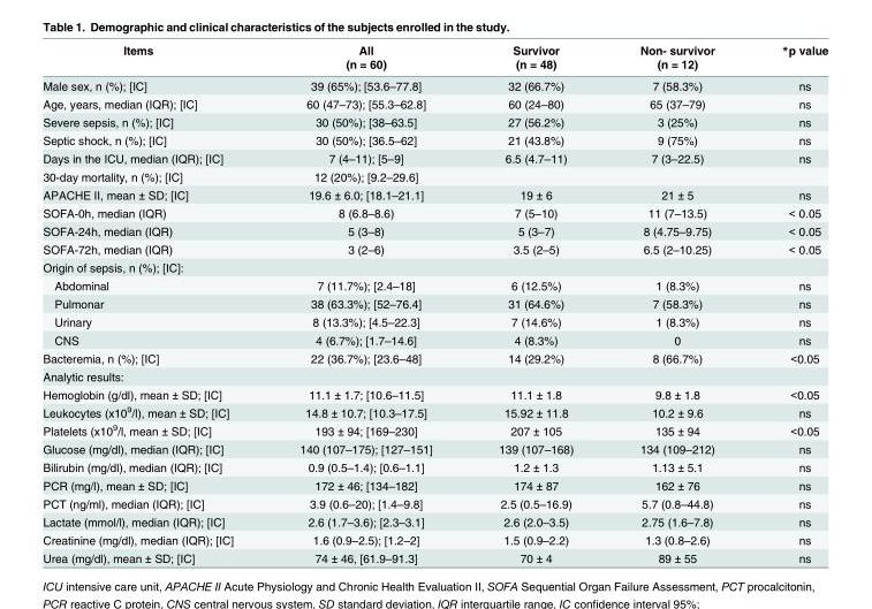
<table><thead><tr><td rowspan="2">Items</td><td rowspan="2">All (n = 60)</td><td rowspan="2">Survivor (n = 48)</td><td rowspan="2">Non- survivor (n = 12)</td><td rowspan="2">*p value</td></tr><tr></tr></thead><tbody><tr><td>Male sex, n (%); [IC]</td><td>39 (65%); [53.6–77.8]</td><td>32 (66.7%)</td><td>7 (58.3%)</td><td>ns</td></tr><tr><td>Age, years, median (IQR); [IC]</td><td>60 (47–73); [55.3–62.8]</td><td>60 (24–80)</td><td>65 (37–79)</td><td>ns</td></tr><tr><td>Severe sepsis, n (%); [IC]</td><td>30 (50%); [38–63.5]</td><td>27 (56.2%)</td><td>3 (25%)</td><td>ns</td></tr><tr><td>Septic shock, n (%); [IC]</td><td>30 (50%); [36.5–62]</td><td>21 (43.8%)</td><td>9 (75%)</td><td>ns</td></tr><tr><td>Days in the ICU, median (IQR); [IC]</td><td>7 (4–11); [5–9]</td><td>6.5 (4.7–11)</td><td>7 (3–22.5)</td><td>ns</td></tr><tr><td>30-day mortality, n (%); [IC]</td><td>12 (20%); [9.2–29.6]</td><td></td><td></td><td></td></tr><tr><td>APACHE II, mean ± SD; [IC]</td><td>19.6 ± 6.0; [18.1–21.1]</td><td>19 ± 6</td><td>21 ± 5</td><td>ns</td></tr><tr><td>SOFA-0h, median (IQR)</td><td>8 (6.8–8.6)</td><td>7 (5–10)</td><td>11 (7–13.5)</td><td>&lt; 0.05</td></tr><tr><td>SOFA-24h, median (IQR)</td><td>5 (3–8)</td><td>5 (3–7)</td><td>8 (4.75–9.75)</td><td>&lt; 0.05</td></tr><tr><td>SOFA-72h, median (IQR)</td><td>3 (2–6)</td><td>3.5 (2–5)</td><td>6.5 (2–10.25)</td><td>&lt; 0.05</td></tr><tr><td colspan="5">Origin of sepsis, n (%); [IC]:</td></tr><tr><td>Abdominal</td><td>7 (11.7%); [2.4–18]</td><td>6 (12.5%)</td><td>1 (8.3%)</td><td>ns</td></tr><tr><td>Pulmonar</td><td>38 (63.3%); [52–76.4]</td><td>31 (64.6%)</td><td>7 (58.3%)</td><td>ns</td></tr><tr><td>Urinary</td><td>8 (13.3%); [4.5–22.3]</td><td>7 (14.6%)</td><td>1 (8.3%)</td><td>ns</td></tr><tr><td>CNS</td><td>4 (6.7%); [1.7–14.6]</td><td>4 (8.3%)</td><td>0</td><td>ns</td></tr><tr><td>Bacteremia, n (%); [IC]</td><td>22 (36.7%); [23.6–48]</td><td>14 (29.2%)</td><td>8 (66.7%)</td><td>&lt;0.05</td></tr><tr><td colspan="5">Analytic results:</td></tr><tr><td>Hemoglobin (g/dl), mean ± SD; [IC]</td><td>11.1 ± 1.7; [10.6–11.5]</td><td>11.1 ± 1.8</td><td>9.8 ± 1.8</td><td>&lt;0.05</td></tr><tr><td>Leukocytes (x10<sup>9</sup>/l), mean ± SD; [IC]</td><td>14.8 ± 10.7; [10.3–17.5]</td><td>15.92 ± 11.8</td><td>10.2 ± 9.6</td><td>ns</td></tr><tr><td>Platelets (x10<sup>9</sup>/l, mean ± SD; [IC]</td><td>193 ± 94; [169–230]</td><td>207 ± 105</td><td>135 ± 94</td><td>&lt;0.05</td></tr><tr><td>Glucose (mg/dl), median (IQR); [IC]</td><td>140 (107–175); [127–151]</td><td>139 (107–168)</td><td>134 (109–212)</td><td>ns</td></tr><tr><td>Bilirubin (mg/dl), median (IQR); [IC]</td><td>0.9 (0.5–1.4); [0.6–1.1]</td><td>1.2 ± 1.3</td><td>1.13 ± 5.1</td><td>ns</td></tr><tr><td>PCR (mg/l), mean ± SD; [IC]</td><td>172 ± 46; [134–182]</td><td>174 ± 87</td><td>162 ± 76</td><td>ns</td></tr><tr><td>PCT (ng/ml), median (IQR); [IC]</td><td>3.9 (0.6–20); [1.4–9.8]</td><td>2.5 (0.5–16.9)</td><td>5.7 (0.8–44.8)</td><td>ns</td></tr><tr><td>Lactate (mmol/l), median (IQR); [IC]</td><td>2.6 (1.7–3.6); [2.3–3.1]</td><td>2.6 (2.0–3.5)</td><td>2.75 (1.6–7.8)</td><td>ns</td></tr><tr><td>Creatinine (mg/dl), median (IQR); [IC]</td><td>1.6 (0.9–2.5); [1.2–2]</td><td>1.5 (0.9–2.2)</td><td>1.3 (0.8–2.6)</td><td>ns</td></tr><tr><td>Urea (mg/dl), mean ± SD; [IC]</td><td>74 ± 46, [61.9–91.3]</td><td>70 ± 4</td><td>89 ± 55</td><td>ns</td></tr></tbody></table>